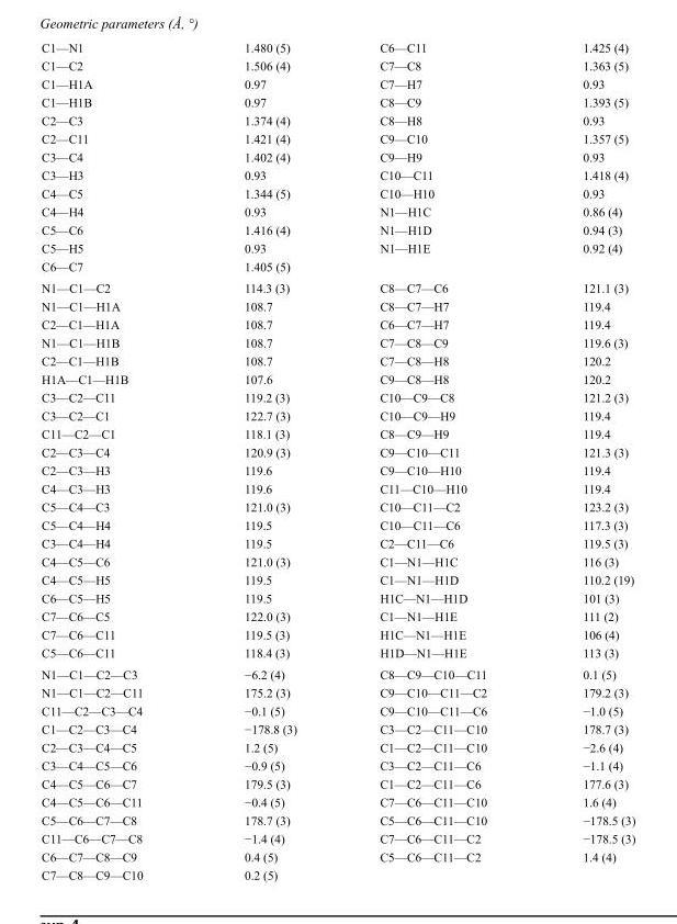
<table><tbody><tr><td>C1—N1</td><td>1.480 (5)</td><td>C6—C11</td><td>1.425 (4)</td></tr><tr><td>C1—C2</td><td>1.506 (4)</td><td>C7—C8</td><td>1.363 (5)</td></tr><tr><td>C1—H1A</td><td>0.97</td><td>C7—H7</td><td>0.93</td></tr><tr><td>C1—H1B</td><td>0.97</td><td>C8—C9</td><td>1.393 (5)</td></tr><tr><td>C2—C3</td><td>1.374 (4)</td><td>C8—H8</td><td>0.93</td></tr><tr><td>C2—C11</td><td>1.421 (4)</td><td>C9—C10</td><td>1.357 (5)</td></tr><tr><td>C3—C4</td><td>1.402 (4)</td><td>C9—H9</td><td>0.93</td></tr><tr><td>C3—H3</td><td>0.93</td><td>C10—C11</td><td>1.418 (4)</td></tr><tr><td>C4—C5</td><td>1.344 (5)</td><td>C10—H10</td><td>0.93</td></tr><tr><td>C4—H4</td><td>0.93</td><td>N1—H1C</td><td>0.86 (4)</td></tr><tr><td>C5—C6</td><td>1.416 (4)</td><td>N1—H1D</td><td>0.94 (3)</td></tr><tr><td>C5—H5</td><td>0.93</td><td>N1—H1E</td><td>0.92 (4)</td></tr><tr><td>C6—C7</td><td>1.405 (5)</td><td></td><td></td></tr><tr><td>N1—C1—C2</td><td>114.3 (3)</td><td>C8—C7—C6</td><td>121.1 (3)</td></tr><tr><td>N1—C1—H1A</td><td>108.7</td><td>C8—C7—H7</td><td>119.4</td></tr><tr><td>C2—C1—H1A</td><td>108.7</td><td>C6—C7—H7</td><td>119.4</td></tr><tr><td>N1—C1—H1B</td><td>108.7</td><td>C7—C8—C9</td><td>119.6 (3)</td></tr><tr><td>C2—C1—H1B</td><td>108.7</td><td>C7—C8—H8</td><td>120.2</td></tr><tr><td>H1A—C1—H1B</td><td>107.6</td><td>C9—C8—H8</td><td>120.2</td></tr><tr><td>C3—C2—C11</td><td>119.2 (3)</td><td>C10—C9—C8</td><td>121.2 (3)</td></tr><tr><td>C3—C2—C1</td><td>122.7 (3)</td><td>C10—C9—H9</td><td>119.4</td></tr><tr><td>C11—C2—C1</td><td>118.1 (3)</td><td>C8—C9—H9</td><td>119.4</td></tr><tr><td>C2—C3—C4</td><td>120.9 (3)</td><td>C9—C10—C11</td><td>121.3 (3)</td></tr><tr><td>C2—C3—H3</td><td>119.6</td><td>C9—C10—H10</td><td>119.4</td></tr><tr><td>C4—C3—H3</td><td>119.6</td><td>C11—C10—H10</td><td>119.4</td></tr><tr><td>C5—C4—C3</td><td>121.0 (3)</td><td>C10—C11—C2</td><td>123.2 (3)</td></tr><tr><td>C5—C4—H4</td><td>119.5</td><td>C10—C11—C6</td><td>117.3 (3)</td></tr><tr><td>C3—C4—H4</td><td>119.5</td><td>C2—C11—C6</td><td>119.5 (3)</td></tr><tr><td>C4—C5—C6</td><td>121.0 (3)</td><td>C1—N1—H1C</td><td>116 (3)</td></tr><tr><td>C4—C5—H5</td><td>119.5</td><td>C1—N1—H1D</td><td>110.2 (19)</td></tr><tr><td>C6—C5—H5</td><td>119.5</td><td>H1C—N1—H1D</td><td>101 (3)</td></tr><tr><td>C7—C6—C5</td><td>122.0 (3)</td><td>C1—N1—H1E</td><td>111 (2)</td></tr><tr><td>C7—C6—C11</td><td>119.5 (3)</td><td>H1C—N1—H1E</td><td>106 (4)</td></tr><tr><td>C5—C6—C11</td><td>118.4 (3)</td><td>H1D—N1—H1E</td><td>113 (3)</td></tr><tr><td>N1—C1—C2—C3</td><td>−6.2 (4)</td><td>C8—C9—C10—C11</td><td>0.1 (5)</td></tr><tr><td>N1—C1—C2—C11</td><td>175.2 (3)</td><td>C9—C10—C11—C2</td><td>179.2 (3)</td></tr><tr><td>C11—C2—C3—C4</td><td>−0.1 (5)</td><td>C9—C10—C11—C6</td><td>−1.0 (5)</td></tr><tr><td>C1—C2—C3—C4</td><td>−178.8 (3)</td><td>C3—C2—C11—C10</td><td>178.7 (3)</td></tr><tr><td>C2—C3—C4—C5</td><td>1.2 (5)</td><td>C1—C2—C11—C10</td><td>−2.6 (4)</td></tr><tr><td>C3—C4—C5—C6</td><td>−0.9 (5)</td><td>C3—C2—C11—C6</td><td>−1.1 (4)</td></tr><tr><td>C4—C5—C6—C7</td><td>179.5 (3)</td><td>C1—C2—C11—C6</td><td>177.6 (3)</td></tr><tr><td>C4—C5—C6—C11</td><td>−0.4 (5)</td><td>C7—C6—C11—C10</td><td>1.6 (4)</td></tr><tr><td>C5—C6—C7—C8</td><td>178.7 (3)</td><td>C5—C6—C11—C10</td><td>−178.5 (3)</td></tr><tr><td>C11—C6—C7—C8</td><td>−1.4 (4)</td><td>C7—C6—C11—C2</td><td>−178.5 (3)</td></tr><tr><td>C6—C7—C8—C9</td><td>0.4 (5)</td><td>C5—C6—C11—C2</td><td>1.4 (4)</td></tr><tr><td>C7—C8—C9—C10</td><td>0.2 (5)</td><td></td><td></td></tr></tbody></table>